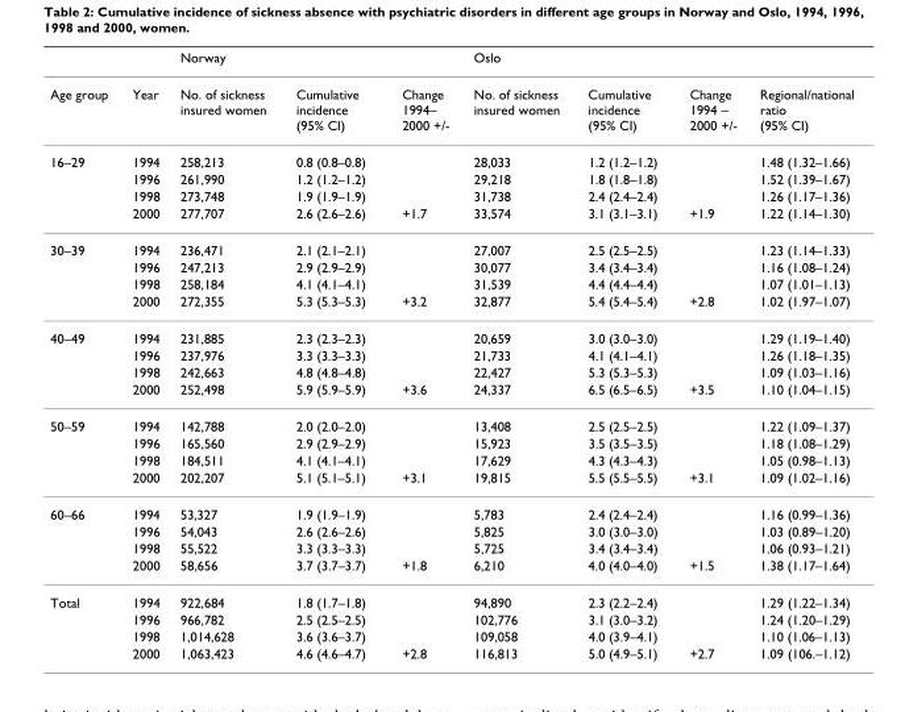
<table><thead><tr><td></td><td></td><td>Norway</td><td></td><td></td><td>Oslo</td><td></td><td></td><td></td></tr></thead><tbody><tr><td>Age group</td><td>Year</td><td>No. of sickness insured women</td><td>Cumulative incidence (95% CI)</td><td>Change 1994– 2000 +/-</td><td>No. of sickness insured women</td><td>Cumulative incidence (95% CI)</td><td>Change 1994 – 2000 +/-</td><td>Regional/national ratio (95% CI)</td></tr><tr><td rowspan="4">16–29</td><td>1994</td><td>258,213</td><td>0.8 (0.8–0.8)</td><td></td><td>28,033</td><td>1.2 (1.2–1.2)</td><td></td><td>1.48 (1.32–1.66)</td></tr><tr><td>1996</td><td>261,990</td><td>1.2 (1.2–1.2)</td><td></td><td>29,218</td><td>1.8 (1.8–1.8)</td><td></td><td>1.52 (1.39–1.67)</td></tr><tr><td>1998</td><td>273,748</td><td>1.9 (1.9–1.9)</td><td></td><td>31,738</td><td>2.4 (2.4–2.4)</td><td></td><td>1.26 (1.17–1.36)</td></tr><tr><td>2000</td><td>277,707</td><td>2.6 (2.6–2.6)</td><td>+1.7</td><td>33,574</td><td>3.1 (3.1–3.1)</td><td>+1.9</td><td>1.22 (1.14–1.30)</td></tr><tr><td rowspan="4">30–39</td><td>1994</td><td>236,471</td><td>2.1 (2.1–2.1)</td><td></td><td>27,007</td><td>2.5 (2.5–2.5)</td><td></td><td>1.23 (1.14–1.33)</td></tr><tr><td>1996</td><td>247,213</td><td>2.9 (2.9–2.9)</td><td></td><td>30,077</td><td>3.4 (3.4–3.4)</td><td></td><td>1.16 (1.08–1.24)</td></tr><tr><td>1998</td><td>258,184</td><td>4.1 (4.1–4.1)</td><td></td><td>31,539</td><td>4.4 (4.4–4.4)</td><td></td><td>1.07 (1.01–1.13)</td></tr><tr><td>2000</td><td>272,355</td><td>5.3 (5.3–5.3)</td><td>+3.2</td><td>32,877</td><td>5.4 (5.4–5.4)</td><td>+2.8</td><td>1.02 (1.97–1.07)</td></tr><tr><td rowspan="4">40–49</td><td>1994</td><td>231,885</td><td>2.3 (2.3–2.3)</td><td></td><td>20,659</td><td>3.0 (3.0–3.0)</td><td></td><td>1.29 (1.19–1.40)</td></tr><tr><td>1996</td><td>237,976</td><td>3.3 (3.3–3.3)</td><td></td><td>21,733</td><td>4.1 (4.1–4.1)</td><td></td><td>1.26 (1.18–1.35)</td></tr><tr><td>1998</td><td>242,663</td><td>4.8 (4.8–4.8)</td><td></td><td>22,427</td><td>5.3 (5.3–5.3)</td><td></td><td>1.09 (1.03–1.16)</td></tr><tr><td>2000</td><td>252,498</td><td>5.9 (5.9–5.9)</td><td>+3.6</td><td>24,337</td><td>6.5 (6.5–6.5)</td><td>+3.5</td><td>1.10 (1.04–1.15)</td></tr><tr><td rowspan="4">50–59</td><td>1994</td><td>142,788</td><td>2.0 (2.0–2.0)</td><td></td><td>13,408</td><td>2.5 (2.5–2.5)</td><td></td><td>1.22 (1.09–1.37)</td></tr><tr><td>1996</td><td>165,560</td><td>2.9 (2.9–2.9)</td><td></td><td>15,923</td><td>3.5 (3.5–3.5)</td><td></td><td>1.18 (1.08–1.29)</td></tr><tr><td>1998</td><td>184,511</td><td>4.1 (4.1–4.1)</td><td></td><td>17,629</td><td>4.3 (4.3–4.3)</td><td></td><td>1.05 (0.98–1.13)</td></tr><tr><td>2000</td><td>202,207</td><td>5.1 (5.1–5.1)</td><td>+3.1</td><td>19,815</td><td>5.5 (5.5–5.5)</td><td>+3.1</td><td>1.09 (1.02–1.16)</td></tr><tr><td rowspan="4">60–66</td><td>1994</td><td>53,327</td><td>1.9 (1.9–1.9)</td><td></td><td>5,783</td><td>2.4 (2.4–2.4)</td><td></td><td>1.16 (0.99–1.36)</td></tr><tr><td>1996</td><td>54,043</td><td>2.6 (2.6–2.6)</td><td></td><td>5,825</td><td>3.0 (3.0–3.0)</td><td></td><td>1.03 (0.89–1.20)</td></tr><tr><td>1998</td><td>55,522</td><td>3.3 (3.3–3.3)</td><td></td><td>5,725</td><td>3.4 (3.4–3.4)</td><td></td><td>1.06 (0.93–1.21)</td></tr><tr><td>2000</td><td>58,656</td><td>3.7 (3.7–3.7)</td><td>+1.8</td><td>6,210</td><td>4.0 (4.0–4.0)</td><td>+1.5</td><td>1.38 (1.17–1.64)</td></tr><tr><td rowspan="4">Total</td><td>1994</td><td>922,684</td><td>1.8 (1.7–1.8)</td><td></td><td>94,890</td><td>2.3 (2.2–2.4)</td><td></td><td>1.29 (1.22–1.34)</td></tr><tr><td>1996</td><td>966,782</td><td>2.5 (2.5–2.5)</td><td></td><td>102,776</td><td>3.1 (3.0–3.2)</td><td></td><td>1.24 (1.20–1.29)</td></tr><tr><td>1998</td><td>1,014,628</td><td>3.6 (3.6–3.7)</td><td></td><td>109,058</td><td>4.0 (3.9–4.1)</td><td></td><td>1.10 (1.06–1.13)</td></tr><tr><td>2000</td><td>1,063,423</td><td>4.6 (4.6–4.7)</td><td>+2.8</td><td>116,813</td><td>5.0 (4.9–5.1)</td><td>+2.7</td><td>1.09 (106.–1.12)</td></tr></tbody></table>